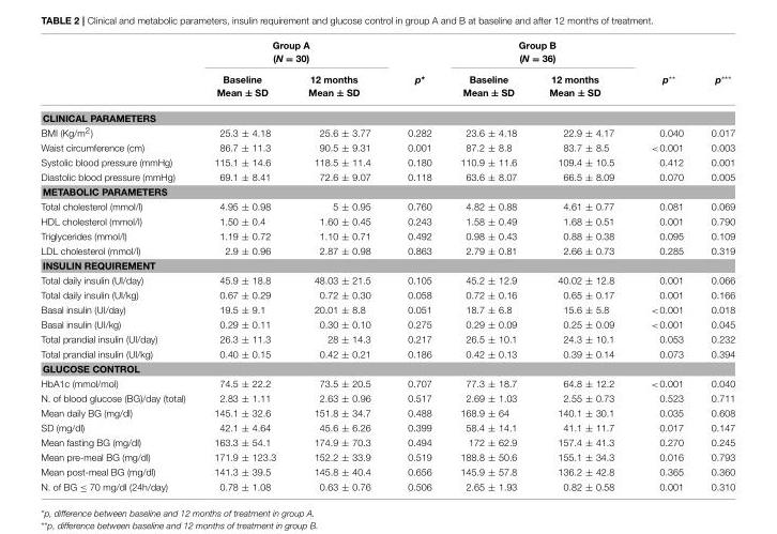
<table><thead><tr><td rowspan="2"></td><td colspan="2">Group A (N = 30)</td><td rowspan="2">p*</td><td colspan="2">Group B (N = 36)</td><td rowspan="2">p**</td><td rowspan="2">p***</td></tr><tr><td>Baseline Mean ± SD</td><td>12 months Mean ± SD</td><td>Baseline Mean ± SD</td><td>12 months Mean ± SD</td></tr></thead><tbody><tr><td colspan="8">CLINICAL PARAMETERS</td></tr><tr><td>BMI (Kg/m<sup>2</sup>)</td><td>25.3 ± 4.18</td><td>25.6 ± 3.77</td><td>0.282</td><td>23.6 ± 4.18</td><td>22.9 ± 4.17</td><td>0.040</td><td>0.017</td></tr><tr><td>Waist circumference (cm)</td><td>86.7 ± 11.3</td><td>90.5 ± 9.31</td><td>0.001</td><td>87.2 ± 8.8</td><td>83.7 ± 8.5</td><td>&lt;0.001</td><td>0.003</td></tr><tr><td>Systolic blood pressure (mmHg)</td><td>115.1 ± 14.6</td><td>118.5 ± 11.4</td><td>0.180</td><td>110.9 ± 11.6</td><td>109.4 ± 10.5</td><td>0.412</td><td>0.001</td></tr><tr><td>Diastolic blood pressure (mmHg)</td><td>69.1 ± 8.41</td><td>72.6 ± 9.07</td><td>0.118</td><td>63.6 ± 8.07</td><td>66.5 ± 8.09</td><td>0.070</td><td>0.005</td></tr><tr><td colspan="8">METABOLIC PARAMETERS</td></tr><tr><td>Total cholesterol (mmol/l)</td><td>4.95 ± 0.98</td><td>5 ± 0.95</td><td>0.760</td><td>4.82 ± 0.88</td><td>4.61 ± 0.77</td><td>0.081</td><td>0.069</td></tr><tr><td>HDL cholesterol (mmol/l)</td><td>1.50 ± 0.4</td><td>1.60 ± 0.45</td><td>0.243</td><td>1.58 ± 0.49</td><td>1.68 ± 0.51</td><td>0.001</td><td>0.790</td></tr><tr><td>Triglycerides (mmol/l)</td><td>1.19 ± 0.72</td><td>1.10 ± 0.71</td><td>0.492</td><td>0.98 ± 0.43</td><td>0.88 ± 0.38</td><td>0.095</td><td>0.109</td></tr><tr><td>LDL cholesterol (mmol/l)</td><td>2.9 ± 0.96</td><td>2.87 ± 0.98</td><td>0.863</td><td>2.79 ± 0.81</td><td>2.66 ± 0.73</td><td>0.285</td><td>0.319</td></tr><tr><td colspan="8">INSULIN REQUIREMENT</td></tr><tr><td>Total daily insulin (UI/day)</td><td>45.9 ± 18.8</td><td>48.03 ± 21.5</td><td>0.105</td><td>45.2 ± 12.9</td><td>40.02 ± 12.8</td><td>0.001</td><td>0.066</td></tr><tr><td>Total daily insulin (UI/kg)</td><td>0.67 ± 0.29</td><td>0.72 ± 0.30</td><td>0.058</td><td>0.72 ± 0.16</td><td>0.65 ± 0.17</td><td>0.001</td><td>0.166</td></tr><tr><td>Basal insulin (UI/day)</td><td>19.5 ± 9.1</td><td>20.01 ± 8.8</td><td>0.051</td><td>18.7 ± 6.8</td><td>15.6 ± 5.8</td><td>&lt;0.001</td><td>0.018</td></tr><tr><td>Basal insulin (UI/kg)</td><td>0.29 ± 0.11</td><td>0.30 ± 0.10</td><td>0.275</td><td>0.29 ± 0.09</td><td>0.25 ± 0.09</td><td>&lt;0.001</td><td>0.045</td></tr><tr><td>Total prandial insulin (UI/day)</td><td>26.3 ± 11.3</td><td>28 ± 14.3</td><td>0.217</td><td>26.5 ± 10.1</td><td>24.3 ± 10.1</td><td>0.053</td><td>0.232</td></tr><tr><td>Total prandial insulin (UI/kg)</td><td>0.40 ± 0.15</td><td>0.42 ± 0.21</td><td>0.186</td><td>0.42 ± 0.13</td><td>0.39 ± 0.14</td><td>0.073</td><td>0.394</td></tr><tr><td colspan="8">GLUCOSE CONTROL</td></tr><tr><td>HbA1c (mmol/mol)</td><td>74.5 ± 22.2</td><td>73.5 ± 20.5</td><td>0.707</td><td>77.3 ± 18.7</td><td>64.8 ± 12.2</td><td>&lt;0.001</td><td>0.040</td></tr><tr><td>N. of blood glucose (BG)/day (total)</td><td>2.83 ± 1.11</td><td>2.63 ± 0.96</td><td>0.517</td><td>2.69 ± 1.03</td><td>2.55 ± 0.73</td><td>0.523</td><td>0.711</td></tr><tr><td>Mean daily BG (mg/dl)</td><td>145.1 ± 32.6</td><td>151.8 ± 34.7</td><td>0.488</td><td>168.9 ± 64</td><td>140.1 ± 30.1</td><td>0.035</td><td>0.608</td></tr><tr><td>SD (mg/dl)</td><td>42.1 ± 4.64</td><td>45.6 ± 6.26</td><td>0.399</td><td>58.4 ± 14.1</td><td>41.1 ± 11.7</td><td>0.017</td><td>0.147</td></tr><tr><td>Mean fasting BG (mg/dl)</td><td>163.3 ± 54.1</td><td>174.9 ± 70.3</td><td>0.494</td><td>172 ± 62.9</td><td>157.4 ± 41.3</td><td>0.270</td><td>0.245</td></tr><tr><td>Mean pre-meal BG (mg/dl)</td><td>171.9 ± 123.3</td><td>152.2 ± 33.9</td><td>0.519</td><td>188.8 ± 50.6</td><td>155.1 ± 34.3</td><td>0.016</td><td>0.793</td></tr><tr><td>Mean post-meal BG (mg/dl)</td><td>141.3 ± 39.5</td><td>145.8 ± 40.4</td><td>0.656</td><td>145.9 ± 57.8</td><td>136.2 ± 42.8</td><td>0.365</td><td>0.360</td></tr><tr><td>N. of BG ≤ 70 mg/dl (24h/day)</td><td>0.78 ± 1.08</td><td>0.63 ± 0.76</td><td>0.506</td><td>2.65 ± 1.93</td><td>0.82 ± 0.58</td><td>0.001</td><td>0.310</td></tr></tbody></table>